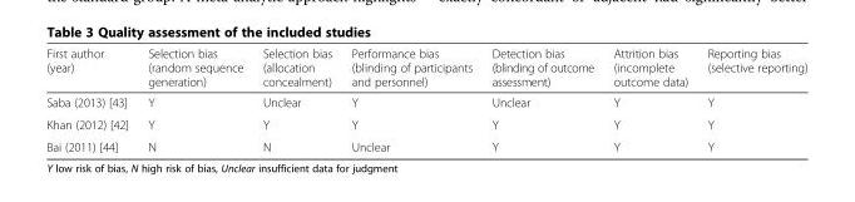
<table><thead><tr><td>First author (year)</td><td>Selection bias (random sequence generation)</td><td>Selection bias (allocation concealment)</td><td>Performance bias (blinding of participants and personnel)</td><td>Detection bias (blinding of outcome assessment)</td><td>Attrition bias (incomplete outcome data)</td><td>Reporting bias (selective reporting)</td></tr></thead><tbody><tr><td>Saba (2013) [43]</td><td>Y</td><td>Unclear</td><td>Y</td><td>Unclear</td><td>Y</td><td>Y</td></tr><tr><td>Khan (2012) [42]</td><td>Y</td><td>Y</td><td>Y</td><td>Y</td><td>Y</td><td>Y</td></tr><tr><td>Bai (2011) [44]</td><td>N</td><td>N</td><td>Unclear</td><td>Y</td><td>Y</td><td>Y</td></tr></tbody></table>